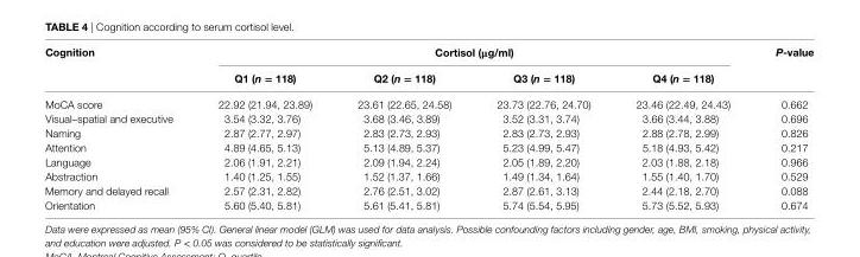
<table><thead><tr><td rowspan="2">cognition</td><td colspan="4">cortisol (μg/ml)</td><td rowspan="2">P-value</td></tr><tr><td>Q1 (n = 118)</td><td>Q2 (n = 118)</td><td>Q3 (n = 118)</td><td>Q4 (n = 118)</td></tr></thead><tbody><tr><td>MoCA score</td><td>22.92 (21.94, 23.89)</td><td>23.61 (22.65, 24.58)</td><td>23.73 (22.76, 24.70)</td><td>23.46 (22.49, 24.43)</td><td>0.662</td></tr><tr><td>Visual–spatial and executive</td><td>3.54 (3.32, 3.76)</td><td>3.68 (3.46, 3.89)</td><td>3.52 (3.31, 3.74)</td><td>3.66 (3.44, 3.88)</td><td>0.696</td></tr><tr><td>Naming</td><td>2.87 (2.77, 2.97)</td><td>2.83 (2.73, 2.93)</td><td>2.83 (2.73, 2.93)</td><td>2.88 (2.78, 2.99)</td><td>0.826</td></tr><tr><td>Attention</td><td>4.89 (4.65, 5.13)</td><td>5.13 (4.89, 5.37)</td><td>5.23 (4.99, 5.47)</td><td>5.18 (4.93, 5.42)</td><td>0.217</td></tr><tr><td>Language</td><td>2.06 (1.91, 2.21)</td><td>2.09 (1.94, 2.24)</td><td>2.05 (1.89, 2.20)</td><td>2.03 (1.88, 2.18)</td><td>0.966</td></tr><tr><td>Abstraction</td><td>1.40 (1.25, 1.55)</td><td>1.52 (1.37, 1.66)</td><td>1.49 (1.34, 1.64)</td><td>1.55 (1.40, 1.70)</td><td>0.529</td></tr><tr><td>Memory and delayed recall</td><td>2.57 (2.31, 2.82)</td><td>2.76 (2.51, 3.02)</td><td>2.87 (2.61, 3.13)</td><td>2.44 (2.18, 2.70)</td><td>0.088</td></tr><tr><td>Orientation</td><td>5.60 (5.40, 5.81)</td><td>5.61 (5.41, 5.81)</td><td>5.74 (5.54, 5.95)</td><td>5.73 (5.52, 5.93)</td><td>0.674</td></tr></tbody></table>